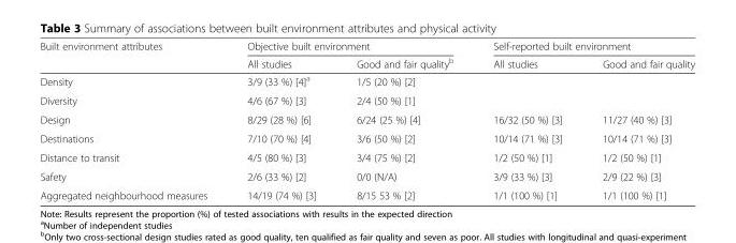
<table><thead><tr><td rowspan="2">Built environment attributes</td><td colspan="2">Objective built environment</td><td colspan="2">Self-reported built environment</td></tr><tr><td>All studies</td><td>Good and fair quality<sup>b</sup></td><td>All studies</td><td>Good and fair quality</td></tr></thead><tbody><tr><td>Density</td><td>3/9 (33 %) [4]<sup>a</sup></td><td>1/5 (20 %) [2]</td><td></td><td></td></tr><tr><td>Diversity</td><td>4/6 (67 %) [3]</td><td>2/4 (50 %) [1]</td><td></td><td></td></tr><tr><td>Design</td><td>8/29 (28 %) [6]</td><td>6/24 (25 %) [4]</td><td>16/32 (50 %) [3]</td><td>11/27 (40 %) [3]</td></tr><tr><td>Destinations</td><td>7/10 (70 %) [4]</td><td>3/6 (50 %) [2]</td><td>10/14 (71 %) [3]</td><td>10/14 (71 %) [3]</td></tr><tr><td>Distance to transit</td><td>4/5 (80 %) [3]</td><td>3/4 (75 %) [2]</td><td>1/2 (50 %) [1]</td><td>1/2 (50 %) [1]</td></tr><tr><td>Safety</td><td>2/6 (33 %) [2]</td><td>0/0 (N/A)</td><td>3/9 (33 %) [3]</td><td>2/9 (22 %) [3]</td></tr><tr><td>Aggregated neighbourhood measures</td><td>14/19 (74 %) [3]</td><td>8/15 53 % [2]</td><td>1/1 (100 %) [1]</td><td>1/1 (100 %) [1]</td></tr></tbody></table>